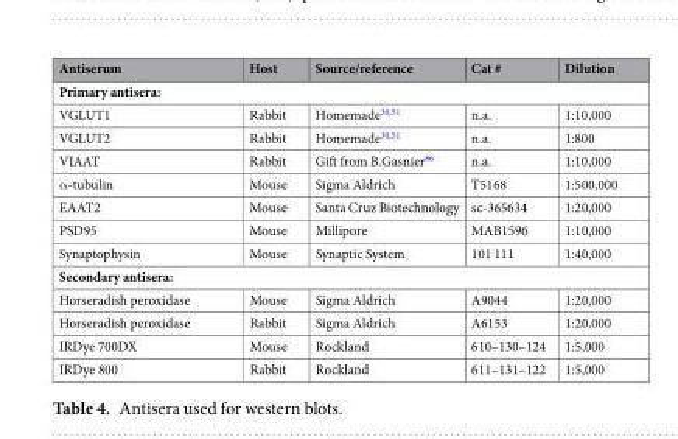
<table><thead><tr><td>Antiserum</td><td>Host</td><td>Source/reference</td><td>Cat #</td><td>Dilution</td></tr></thead><tbody><tr><td colspan="5">Primary antisera:</td></tr><tr><td>VGLUT1</td><td>Rabbit</td><td>Homemade<sup>30,51</sup></td><td>n.a.</td><td>1:10,000</td></tr><tr><td>VGLUT2</td><td>Rabbit</td><td>Homemade<sup>30,51</sup></td><td>n.a.</td><td>1:800</td></tr><tr><td>VIAAT</td><td>Rabbit</td><td>Gift from B.Gasnier<sup>86</sup></td><td>n.a.</td><td>1:10,000</td></tr><tr><td>α-tubulin</td><td>Mouse</td><td>Sigma Aldrich</td><td>T5168</td><td>1:500,000</td></tr><tr><td>EAAT2</td><td>Mouse</td><td>Santa Cruz Biotechnology</td><td>sc-365634</td><td>1:20,000</td></tr><tr><td>PSD95</td><td>Mouse</td><td>Millipore</td><td>MAB1596</td><td>1:10,000</td></tr><tr><td>Synaptophysin</td><td>Mouse</td><td>Synaptic System</td><td>101 111</td><td>1:40,000</td></tr><tr><td colspan="5">Secondary antisera:</td></tr><tr><td>Horseradish peroxidase</td><td>Mouse</td><td>Sigma Aldrich</td><td>A9044</td><td>1:20,000</td></tr><tr><td>Horseradish peroxidase</td><td>Rabbit</td><td>Sigma Aldrich</td><td>A6153</td><td>1:20,000</td></tr><tr><td>IRDye 700DX</td><td>Mouse</td><td>Rockland</td><td>610–130–124</td><td>1:5,000</td></tr><tr><td>IRDye 800</td><td>Rabbit</td><td>Rockland</td><td>611–131–122</td><td>1:5,000</td></tr></tbody></table>